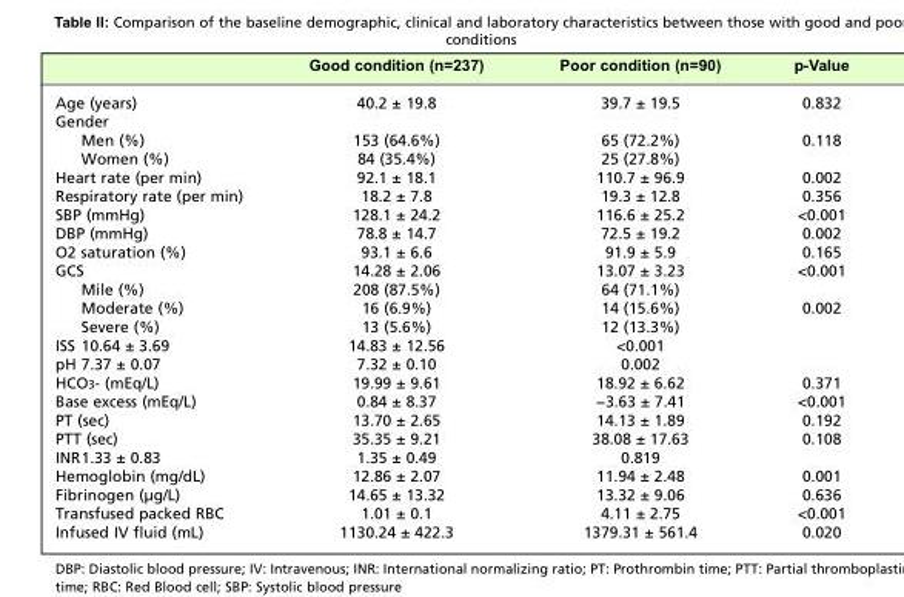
<table><thead><tr><td></td><td>Good condition (n=237)</td><td>Poor condition (n=90)</td><td>p-Value</td></tr></thead><tbody><tr><td>Age (years)</td><td>40.2 ± 19.8</td><td>39.7 ± 19.5</td><td>0.832</td></tr><tr><td colspan="4">Gender</td></tr><tr><td>Men (%)</td><td>153 (64.6%)</td><td>65 (72.2%)</td><td>0.118</td></tr><tr><td>Women (%)</td><td>84 (35.4%)</td><td>25 (27.8%)</td><td></td></tr><tr><td>Heart rate (per min)</td><td>92.1 ± 18.1</td><td>110.7 ± 96.9</td><td>0.002</td></tr><tr><td>Respiratory rate (per min)</td><td>18.2 ± 7.8</td><td>19.3 ± 12.8</td><td>0.356</td></tr><tr><td>SBP (mmHg)</td><td>128.1 ± 24.2</td><td>116.6 ± 25.2</td><td>&lt;0.001</td></tr><tr><td>DBP (mmHg)</td><td>78.8 ± 14.7</td><td>72.5 ± 19.2</td><td>0.002</td></tr><tr><td>O2 saturation (%)</td><td>93.1 ± 6.6</td><td>91.9 ± 5.9</td><td>0.165</td></tr><tr><td>GCS</td><td>14.28 ± 2.06</td><td>13.07 ± 3.23</td><td>&lt;0.001</td></tr><tr><td>Mile (%)</td><td>208 (87.5%)</td><td>64 (71.1%)</td><td></td></tr><tr><td>Moderate (%)</td><td>16 (6.9%)</td><td>14 (15.6%)</td><td>0.002</td></tr><tr><td>Severe (%)</td><td>13 (5.6%)</td><td>12 (13.3%)</td><td></td></tr><tr><td>ISS 10.64 ± 3.69</td><td>14.83 ± 12.56</td><td>&lt;0.001</td><td></td></tr><tr><td>pH 7.37 ± 0.07</td><td>7.32 ± 0.10</td><td>0.002</td><td></td></tr><tr><td>HCO<sub>3-</sub> (mEq/L)</td><td>19.99 ± 9.61</td><td>18.92 ± 6.62</td><td>0.371</td></tr><tr><td>Base excess (mEq/L)</td><td>0.84 ± 8.37</td><td>−3.63 ± 7.41</td><td>&lt;0.001</td></tr><tr><td>PT (sec)</td><td>13.70 ± 2.65</td><td>14.13 ± 1.89</td><td>0.192</td></tr><tr><td>PTT (sec)</td><td>35.35 ± 9.21</td><td>38.08 ± 17.63</td><td>0.108</td></tr><tr><td>INR1.33 ± 0.83</td><td>1.35 ± 0.49</td><td>0.819</td><td></td></tr><tr><td>Hemoglobin (mg/dL)</td><td>12.86 ± 2.07</td><td>11.94 ± 2.48</td><td>0.001</td></tr><tr><td>Fibrinogen (µg/L)</td><td>14.65 ± 13.32</td><td>13.32 ± 9.06</td><td>0.636</td></tr><tr><td>Transfused packed RBC</td><td>1.01 ± 0.1</td><td>4.11 ± 2.75</td><td>&lt;0.001</td></tr><tr><td>Infused IV fluid (mL)</td><td>1130.24 ± 422.3</td><td>1379.31 ± 561.4</td><td>0.020</td></tr></tbody></table>